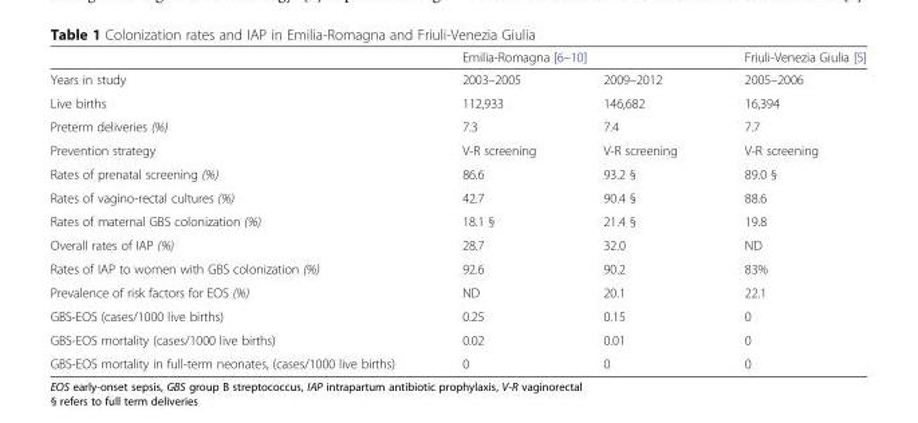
<table><thead><tr><td rowspan="2">Years in study</td><td colspan="2">Emilia-Romagna [6–10]</td><td rowspan="2">Friuli-Venezia Giulia [5] 2005–2006</td></tr><tr><td>2003–2005</td><td>2009–2012</td></tr></thead><tbody><tr><td>Live births</td><td>112,933</td><td>146,682</td><td>16,394</td></tr><tr><td>Preterm deliveries (%)</td><td>7.3</td><td>7.4</td><td>7.7</td></tr><tr><td>Prevention strategy</td><td>V-R screening</td><td>V-R screening</td><td>V-R screening</td></tr><tr><td>Rates of prenatal screening (%)</td><td>86.6</td><td>93.2 §</td><td>89.0 §</td></tr><tr><td>Rates of vagino-rectal cultures (%)</td><td>42.7</td><td>90.4 §</td><td>88.6</td></tr><tr><td>Rates of maternal GBS colonization (%)</td><td>18.1 §</td><td>21.4 §</td><td>19.8</td></tr><tr><td>Overall rates of IAP (%)</td><td>28.7</td><td>32.0</td><td>ND</td></tr><tr><td>Rates of IAP to women with GBS colonization (%)</td><td>92.6</td><td>90.2</td><td>83%</td></tr><tr><td>Prevalence of risk factors for EOS (%)</td><td>ND</td><td>20.1</td><td>22.1</td></tr><tr><td>GBS-EOS (cases/1000 live births)</td><td>0.25</td><td>0.15</td><td>0</td></tr><tr><td>GBS-EOS mortality (cases/1000 live births)</td><td>0.02</td><td>0.01</td><td>0</td></tr><tr><td>GBS-EOS mortality in full-term neonates, (cases/1000 live births)</td><td>0</td><td>0</td><td>0</td></tr></tbody></table>